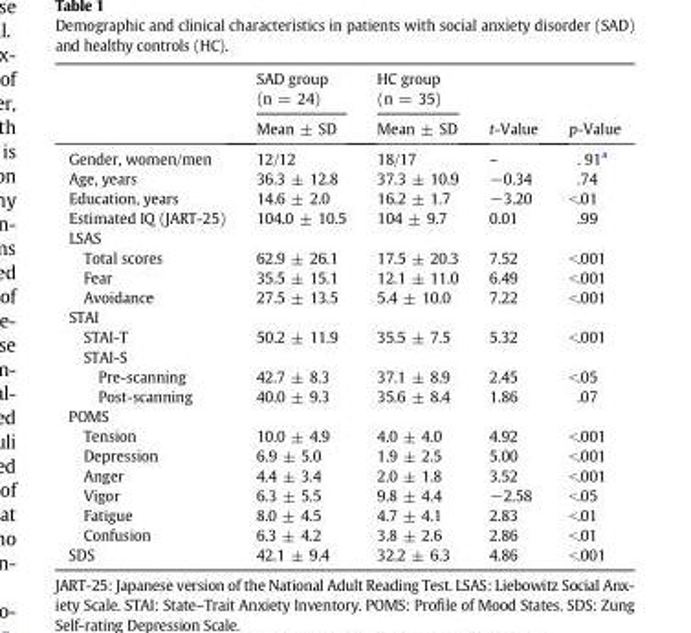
<table><thead><tr><td rowspan="2"></td><td rowspan="2">SAD group (n = 24) Mean ± SD</td><td rowspan="2">HC group (n = 35) Mean ± SD</td><td rowspan="2">t-Value</td><td rowspan="2">p-Value</td></tr><tr></tr></thead><tbody><tr><td>Gender, women/men</td><td>12/12</td><td>18/17</td><td>–</td><td>. 91<sup>a</sup></td></tr><tr><td>Age, years</td><td>36.3 ± 12.8</td><td>37.3 ± 10.9</td><td>−0.34</td><td>.74</td></tr><tr><td>Education, years</td><td>14.6 ± 2.0</td><td>16.2 ± 1.7</td><td>−3.20</td><td>&lt;.01</td></tr><tr><td>Estimated IQ (JART-25)</td><td>104.0 ± 10.5</td><td>104 ± 9.7</td><td>0.01</td><td>.99</td></tr><tr><td colspan="5">LSAS</td></tr><tr><td>Total scores</td><td>62.9 ± 26.1</td><td>17.5 ± 20.3</td><td>7.52</td><td>&lt;.001</td></tr><tr><td>Fear</td><td>35.5 ± 15.1</td><td>12.1 ± 11.0</td><td>6.49</td><td>&lt;.001</td></tr><tr><td>Avoidance</td><td>27.5 ± 13.5</td><td>5.4 ± 10.0</td><td>7.22</td><td>&lt;.001</td></tr><tr><td colspan="5">STAI</td></tr><tr><td>STAI-T</td><td>50.2 ± 11.9</td><td>35.5 ± 7.5</td><td>5.32</td><td>&lt;.001</td></tr><tr><td colspan="5">STAI-S</td></tr><tr><td>Pre-scanning</td><td>42.7 ± 8.3</td><td>37.1 ± 8.9</td><td>2.45</td><td>&lt;.05</td></tr><tr><td>Post-scanning</td><td>40.0 ± 9.3</td><td>35.6 ± 8.4</td><td>1.86</td><td>.07</td></tr><tr><td colspan="5">POMS</td></tr><tr><td>Tension</td><td>10.0 ± 4.9</td><td>4.0 ± 4.0</td><td>4.92</td><td>&lt;.001</td></tr><tr><td>Depression</td><td>6.9 ± 5.0</td><td>1.9 ± 2.5</td><td>5.00</td><td>&lt;.001</td></tr><tr><td>Anger</td><td>4.4 ± 3.4</td><td>2.0 ± 1.8</td><td>3.52</td><td>&lt;.001</td></tr><tr><td>Vigor</td><td>6.3 ± 5.5</td><td>9.8 ± 4.4</td><td>−2.58</td><td>&lt;.05</td></tr><tr><td>Fatigue</td><td>8.0 ± 4.5</td><td>4.7 ± 4.1</td><td>2.83</td><td>&lt;.01</td></tr><tr><td>Confusion</td><td>6.3 ± 4.2</td><td>3.8 ± 2.6</td><td>2.86</td><td>&lt;.01</td></tr><tr><td>SDS</td><td>42.1 ± 9.4</td><td>32.2 ± 6.3</td><td>4.86</td><td>&lt;.001</td></tr></tbody></table>